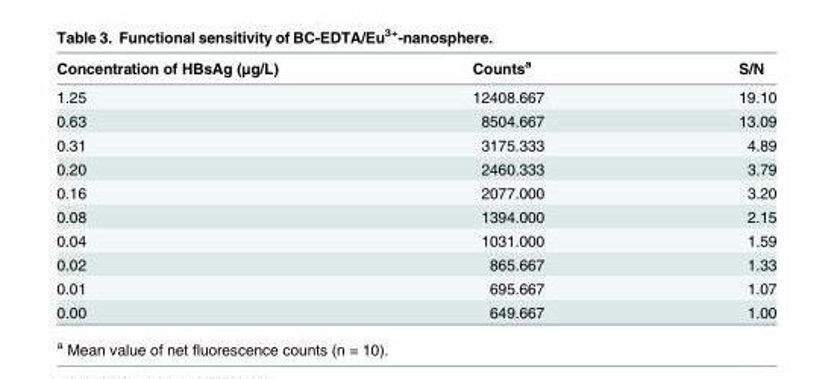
<table><thead><tr><td>Concentration of HBsAg (μg/L)</td><td>Counts<sup>a</sup></td><td>S/N</td></tr></thead><tbody><tr><td>1.25</td><td>12408.667</td><td>19.10</td></tr><tr><td>0.63</td><td>8504.667</td><td>13.09</td></tr><tr><td>0.31</td><td>3175.333</td><td>4.89</td></tr><tr><td>0.20</td><td>2460.333</td><td>3.79</td></tr><tr><td>0.16</td><td>2077.000</td><td>3.20</td></tr><tr><td>0.08</td><td>1394.000</td><td>2.15</td></tr><tr><td>0.04</td><td>1031.000</td><td>1.59</td></tr><tr><td>0.02</td><td>865.667</td><td>1.33</td></tr><tr><td>0.01</td><td>695.667</td><td>1.07</td></tr><tr><td>0.00</td><td>649.667</td><td>1.00</td></tr></tbody></table>